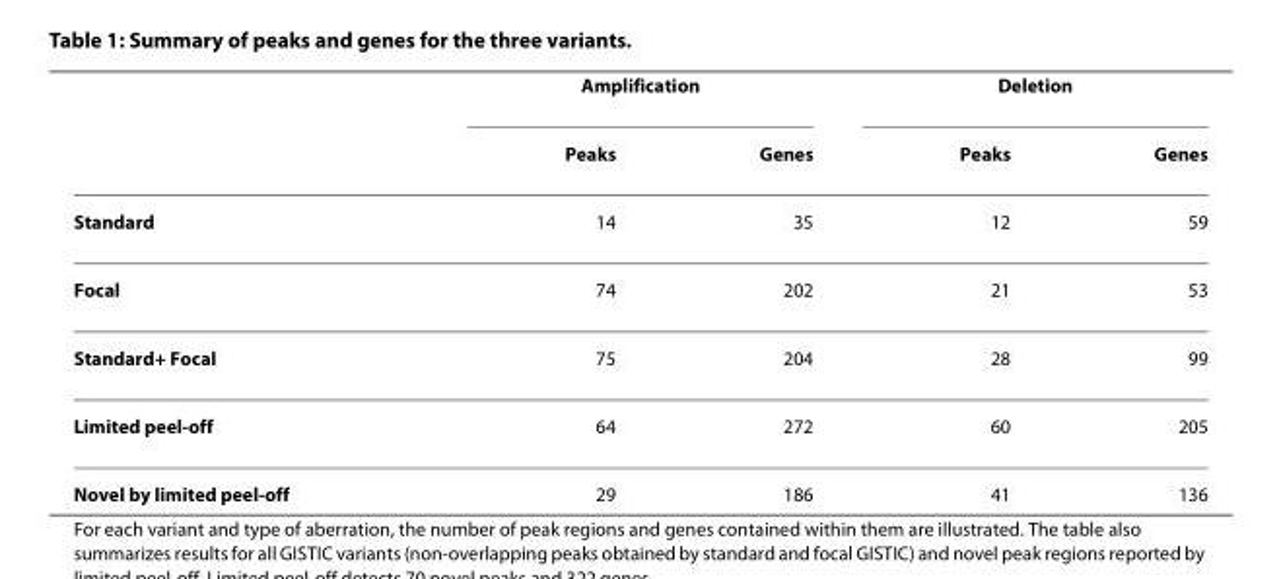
<table><thead><tr><td rowspan="2"></td><td colspan="2">Amplification</td><td colspan="2">Deletion</td></tr><tr><td>Peaks</td><td>Genes</td><td>Peaks</td><td>Genes</td></tr></thead><tbody><tr><td>Standard</td><td>14</td><td>35</td><td>12</td><td>59</td></tr><tr><td>Focal</td><td>74</td><td>202</td><td>21</td><td>53</td></tr><tr><td>Standard+ Focal</td><td>75</td><td>204</td><td>28</td><td>99</td></tr><tr><td>Limited peel-off</td><td>64</td><td>272</td><td>60</td><td>205</td></tr><tr><td>Novel by limited peel-off</td><td>29</td><td>186</td><td>41</td><td>136</td></tr></tbody></table>